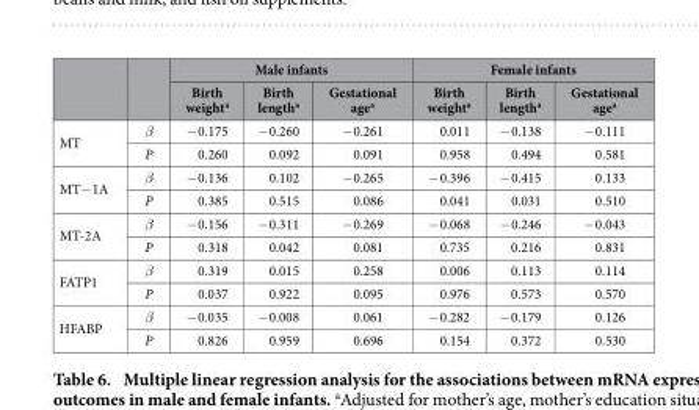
<table><thead><tr><td rowspan="2"></td><td rowspan="2"></td><td colspan="3">Male infants</td><td colspan="3">Female infants</td></tr><tr><td>Birth weight<sup>a</sup></td><td>Birth length<sup>a</sup></td><td>Gestational age<sup>a</sup></td><td>Birth weight<sup>a</sup></td><td>Birth length<sup>a</sup></td><td>Gestational age<sup>a</sup></td></tr></thead><tbody><tr><td rowspan="2">MT</td><td>β</td><td>− 0.175</td><td>− 0.260</td><td>− 0.261</td><td>0.011</td><td>− 0.138</td><td>− 0.111</td></tr><tr><td>P</td><td>0.260</td><td>0.092</td><td>0.091</td><td>0.958</td><td>0.494</td><td>0.581</td></tr><tr><td rowspan="2">MT− 1A</td><td>β</td><td>− 0.136</td><td>0.102</td><td>− 0.265</td><td>− 0.396</td><td>− 0.415</td><td>0.133</td></tr><tr><td>P</td><td>0.385</td><td>0.515</td><td>0.086</td><td>0.041</td><td>0.031</td><td>0.510</td></tr><tr><td rowspan="2">MT-2A</td><td>β</td><td>− 0.156</td><td>− 0.311</td><td>− 0.269</td><td>− 0.068</td><td>− 0.246</td><td>− 0.043</td></tr><tr><td>P</td><td>0.318</td><td>0.042</td><td>0.081</td><td>0.735</td><td>0.216</td><td>0.831</td></tr><tr><td rowspan="2">FATP1</td><td>β</td><td>0.319</td><td>0.015</td><td>0.258</td><td>0.006</td><td>0.113</td><td>0.114</td></tr><tr><td>P</td><td>0.037</td><td>0.922</td><td>0.095</td><td>0.976</td><td>0.573</td><td>0.570</td></tr><tr><td rowspan="2">HFABP</td><td>β</td><td>− 0.035</td><td>− 0.008</td><td>0.061</td><td>− 0.282</td><td>− 0.179</td><td>0.126</td></tr><tr><td>P</td><td>0.826</td><td>0.959</td><td>0.696</td><td>0.154</td><td>0.372</td><td>0.530</td></tr></tbody></table>